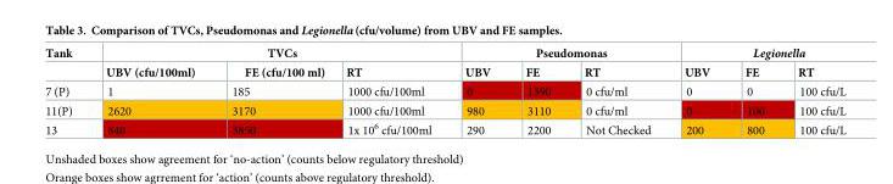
<table><thead><tr><td rowspan="2">Tank</td><td colspan="3">TVCs</td><td colspan="3">Pseudomonas</td><td colspan="3">Legionella</td></tr><tr><td>UBV (cfu/100ml)</td><td>FE (cfu/100 ml)</td><td>RT</td><td>UBV</td><td>FE</td><td>RT</td><td>UBV</td><td>FE</td><td>RT</td></tr></thead><tbody><tr><td>7 (P)</td><td>1</td><td>185</td><td>1000 cfu/100ml</td><td>0</td><td>1390</td><td>0 cfu/ml</td><td>0</td><td>0</td><td>100 cfu/L</td></tr><tr><td>11(P)</td><td>2620</td><td>3170</td><td>1000 cfu/100ml</td><td>980</td><td>3110</td><td>0 cfu/ml</td><td>0</td><td>100</td><td>100 cfu/L</td></tr><tr><td>13</td><td>840</td><td>3850</td><td>1x 10<sup>6</sup> cfu/100ml</td><td>290</td><td>2200</td><td>Not Checked</td><td>200</td><td>800</td><td>100 cfu/L</td></tr></tbody></table>